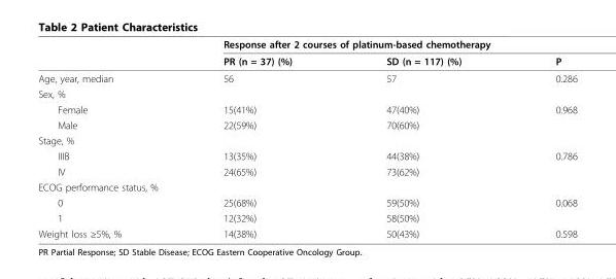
<table><thead><tr><td rowspan="2"></td><td colspan="3">Response after 2 courses of platinum-based chemotherapy</td></tr><tr><td>PR (n = 37) (%)</td><td>SD (n = 117) (%)</td><td>P</td></tr></thead><tbody><tr><td>Age, year, median</td><td>56</td><td>57</td><td>0.286</td></tr><tr><td colspan="4">Sex, %</td></tr><tr><td>Female</td><td>15(41%)</td><td>47(40%)</td><td>0.968</td></tr><tr><td>Male</td><td>22(59%)</td><td>70(60%)</td><td></td></tr><tr><td colspan="4">Stage, %</td></tr><tr><td>IIIB</td><td>13(35%)</td><td>44(38%)</td><td>0.786</td></tr><tr><td>IV</td><td>24(65%)</td><td>73(62%)</td><td></td></tr><tr><td colspan="4">ECOG performance status, %</td></tr><tr><td>0</td><td>25(68%)</td><td>59(50%)</td><td>0.068</td></tr><tr><td>1</td><td>12(32%)</td><td>58(50%)</td><td></td></tr><tr><td>Weight loss ≥5%, %</td><td>14(38%)</td><td>50(43%)</td><td>0.598</td></tr></tbody></table>